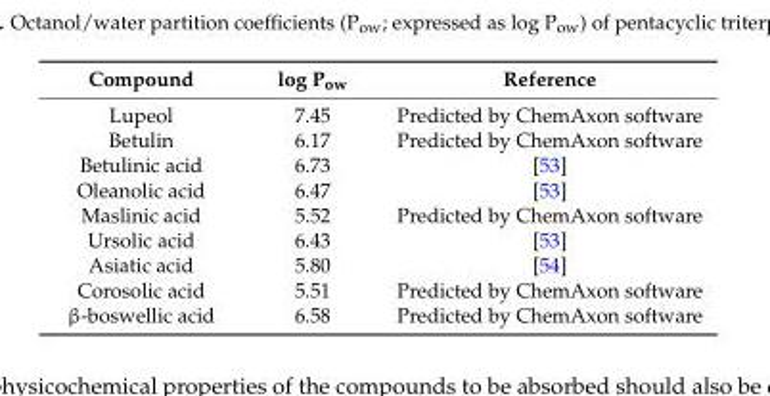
<table><thead><tr><td>Compound</td><td>log P<sub>ow</sub></td><td>Reference</td></tr></thead><tbody><tr><td>Lupeol</td><td>7.45</td><td>Predicted by ChemAxon software</td></tr><tr><td>Betulin</td><td>6.17</td><td>Predicted by ChemAxon software</td></tr><tr><td>Betulinic acid</td><td>6.73</td><td>[53]</td></tr><tr><td>Oleanolic acid</td><td>6.47</td><td>[53]</td></tr><tr><td>Maslinic acid</td><td>5.52</td><td>Predicted by ChemAxon software</td></tr><tr><td>Ursolic acid</td><td>6.43</td><td>[53]</td></tr><tr><td>Asiatic acid</td><td>5.80</td><td>[54]</td></tr><tr><td>Corosolic acid</td><td>5.51</td><td>Predicted by ChemAxon software</td></tr><tr><td>β-boswellic acid</td><td>6.58</td><td>Predicted by ChemAxon software</td></tr></tbody></table>